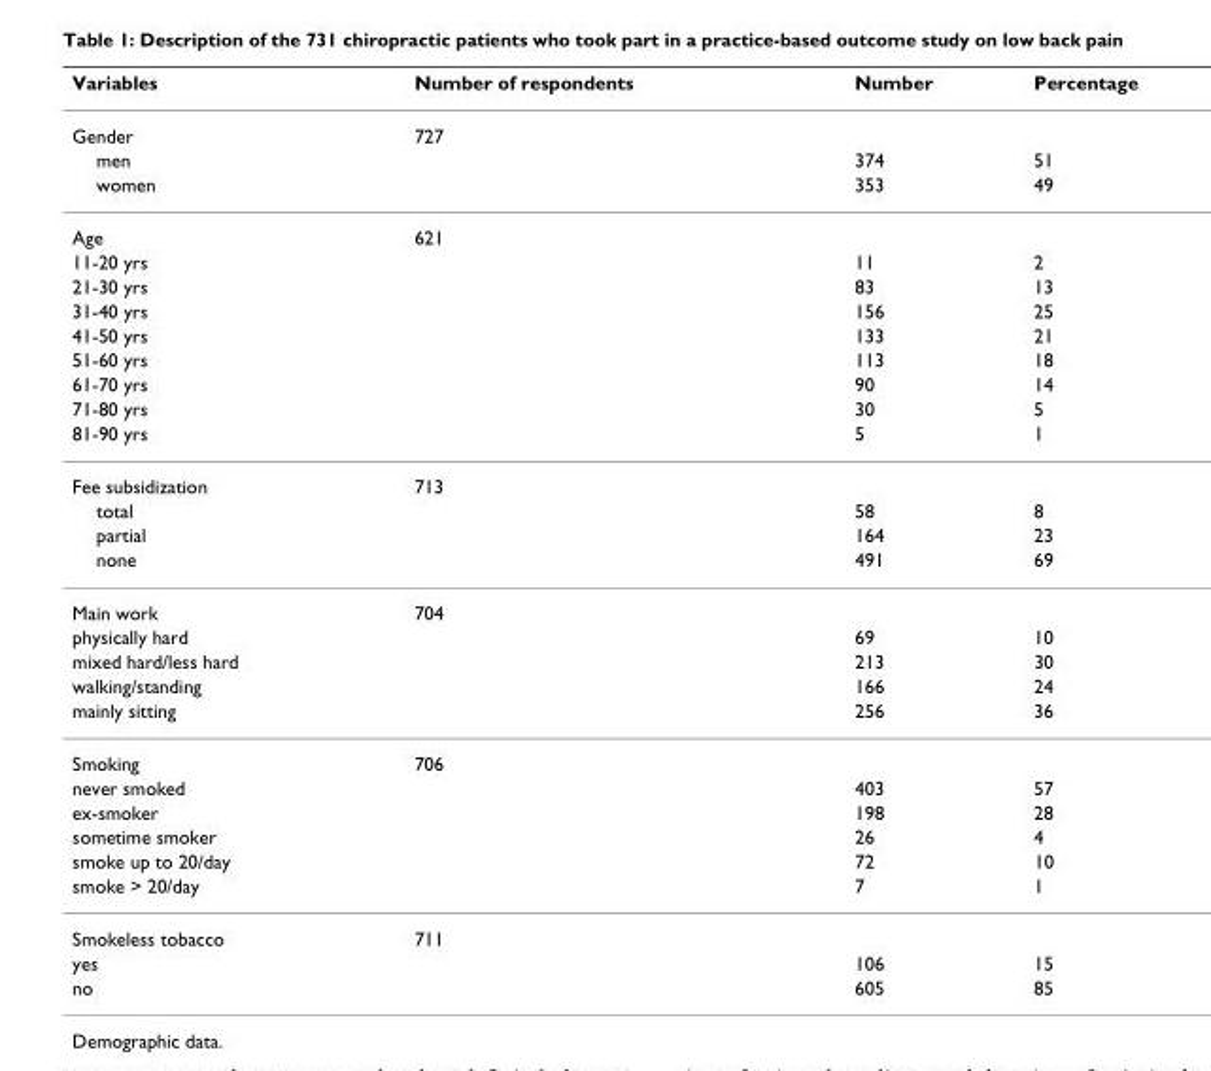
<table><thead><tr><td>Variables</td><td>Number of respondents</td><td>Number</td><td>Percentage</td></tr></thead><tbody><tr><td>Gender</td><td>727</td><td></td><td></td></tr><tr><td>men</td><td></td><td>374</td><td>51</td></tr><tr><td>women</td><td></td><td>353</td><td>49</td></tr><tr><td>Age</td><td>621</td><td></td><td></td></tr><tr><td>11-20 yrs</td><td></td><td>11</td><td>2</td></tr><tr><td>21-30 yrs</td><td></td><td>83</td><td>13</td></tr><tr><td>31-40 yrs</td><td></td><td>156</td><td>25</td></tr><tr><td>41-50 yrs</td><td></td><td>133</td><td>21</td></tr><tr><td>51-60 yrs</td><td></td><td>113</td><td>18</td></tr><tr><td>61-70 yrs</td><td></td><td>90</td><td>14</td></tr><tr><td>71-80 yrs</td><td></td><td>30</td><td>5</td></tr><tr><td>81-90 yrs</td><td></td><td>5</td><td>1</td></tr><tr><td>Fee subsidization</td><td>713</td><td></td><td></td></tr><tr><td>total</td><td></td><td>58</td><td>8</td></tr><tr><td>partial</td><td></td><td>164</td><td>23</td></tr><tr><td>none</td><td></td><td>491</td><td>69</td></tr><tr><td>Main work</td><td>704</td><td></td><td></td></tr><tr><td>physically hard</td><td></td><td>69</td><td>10</td></tr><tr><td>mixed hard/less hard</td><td></td><td>213</td><td>30</td></tr><tr><td>walking/standing</td><td></td><td>166</td><td>24</td></tr><tr><td>mainly sitting</td><td></td><td>256</td><td>36</td></tr><tr><td>Smoking</td><td>706</td><td></td><td></td></tr><tr><td>never smoked</td><td></td><td>403</td><td>57</td></tr><tr><td>ex-smoker</td><td></td><td>198</td><td>28</td></tr><tr><td>sometime smoker</td><td></td><td>26</td><td>4</td></tr><tr><td>smoke up to 20/day</td><td></td><td>72</td><td>10</td></tr><tr><td>smoke &gt; 20/day</td><td></td><td>7</td><td>1</td></tr><tr><td>Smokeless tobacco</td><td>711</td><td></td><td></td></tr><tr><td>yes</td><td></td><td>106</td><td>15</td></tr><tr><td>no</td><td></td><td>605</td><td>85</td></tr></tbody></table>